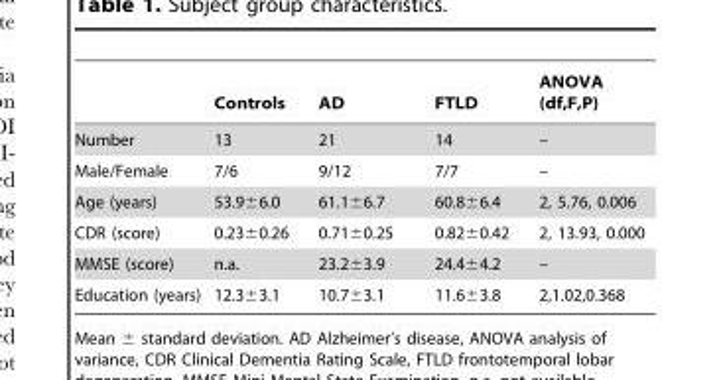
<table><thead><tr><td></td><td>Controls</td><td>AD</td><td>FTLD</td><td>ANOVA (df,F,P)</td></tr></thead><tbody><tr><td>Number</td><td>13</td><td>21</td><td>14</td><td>–</td></tr><tr><td>Male/Female</td><td>7/6</td><td>9/12</td><td>7/7</td><td>–</td></tr><tr><td>Age (years)</td><td>53.9±6.0</td><td>61.1±6.7</td><td>60.8±6.4</td><td>2, 5.76, 0.006</td></tr><tr><td>CDR (score)</td><td>0.23±0.26</td><td>0.71±0.25</td><td>0.82±0.42</td><td>2, 13.93, 0.000</td></tr><tr><td>MMSE (score)</td><td>n.a.</td><td>23.2±3.9</td><td>24.4±4.2</td><td>–</td></tr><tr><td>Education (years)</td><td>12.3±3.1</td><td>10.7±3.1</td><td>11.6±3.8</td><td>2,1.02,0.368</td></tr></tbody></table>